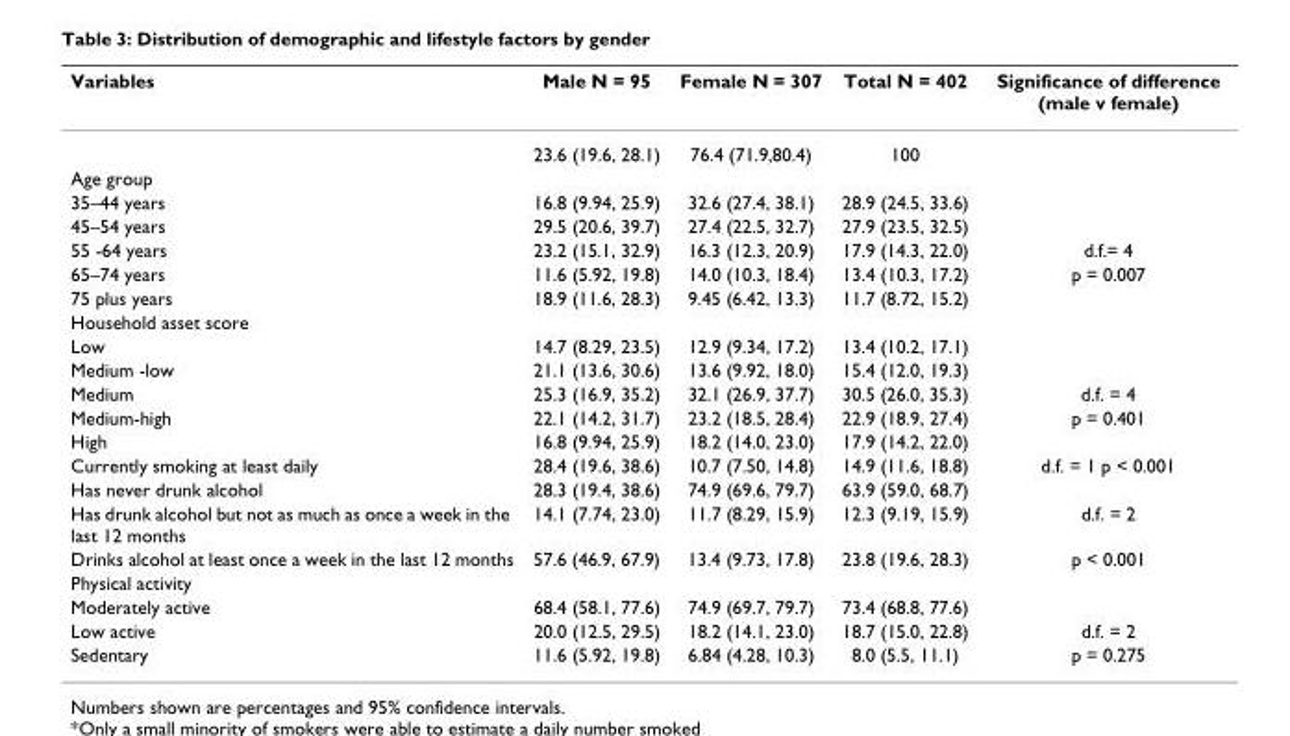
<table><thead><tr><td>Variables</td><td>Male N = 95</td><td>Female N = 307</td><td>Total N = 402</td><td>Significance of difference (male v female)</td></tr></thead><tbody><tr><td></td><td>23.6 (19.6, 28.1)</td><td>76.4 (71.9,80.4)</td><td>100</td><td></td></tr><tr><td colspan="5">Age group</td></tr><tr><td>35–44 years</td><td>16.8 (9.94, 25.9)</td><td>32.6 (27.4, 38.1)</td><td>28.9 (24.5, 33.6)</td><td></td></tr><tr><td>45–54 years</td><td>29.5 (20.6, 39.7)</td><td>27.4 (22.5, 32.7)</td><td>27.9 (23.5, 32.5)</td><td></td></tr><tr><td>55 -64 years</td><td>23.2 (15.1, 32.9)</td><td>16.3 (12.3, 20.9)</td><td>17.9 (14.3, 22.0)</td><td>d.f.= 4</td></tr><tr><td>65–74 years</td><td>11.6 (5.92, 19.8)</td><td>14.0 (10.3, 18.4)</td><td>13.4 (10.3, 17.2)</td><td>p = 0.007</td></tr><tr><td>75 plus years</td><td>18.9 (11.6, 28.3)</td><td>9.45 (6.42, 13.3)</td><td>11.7 (8.72, 15.2)</td><td></td></tr><tr><td colspan="5">Household asset score</td></tr><tr><td>Low</td><td>14.7 (8.29, 23.5)</td><td>12.9 (9.34, 17.2)</td><td>13.4 (10.2, 17.1)</td><td></td></tr><tr><td>Medium -low</td><td>21.1 (13.6, 30.6)</td><td>13.6 (9.92, 18.0)</td><td>15.4 (12.0, 19.3)</td><td></td></tr><tr><td>Medium</td><td>25.3 (16.9, 35.2)</td><td>32.1 (26.9, 37.7)</td><td>30.5 (26.0, 35.3)</td><td>d.f. = 4</td></tr><tr><td>Medium-high</td><td>22.1 (14.2, 31.7)</td><td>23.2 (18.5, 28.4)</td><td>22.9 (18.9, 27.4)</td><td>p = 0.401</td></tr><tr><td>High</td><td>16.8 (9.94, 25.9)</td><td>18.2 (14.0, 23.0)</td><td>17.9 (14.2, 22.0)</td><td></td></tr><tr><td>Currently smoking at least daily</td><td>28.4 (19.6, 38.6)</td><td>10.7 (7.50, 14.8)</td><td>14.9 (11.6, 18.8)</td><td>d.f. = 1 p &lt; 0.001</td></tr><tr><td>Has never drunk alcohol</td><td>28.3 (19.4, 38.6)</td><td>74.9 (69.6, 79.7)</td><td>63.9 (59.0, 68.7)</td><td></td></tr><tr><td>Has drunk alcohol but not as much as once a week in the last 12 months</td><td>14.1 (7.74, 23.0)</td><td>11.7 (8.29, 15.9)</td><td>12.3 (9.19, 15.9)</td><td>d.f. = 2</td></tr><tr><td>Drinks alcohol at least once a week in the last 12 months</td><td>57.6 (46.9, 67.9)</td><td>13.4 (9.73, 17.8)</td><td>23.8 (19.6, 28.3)</td><td>p &lt; 0.001</td></tr><tr><td colspan="5">Physical activity</td></tr><tr><td>Moderately active</td><td>68.4 (58.1, 77.6)</td><td>74.9 (69.7, 79.7)</td><td>73.4 (68.8, 77.6)</td><td></td></tr><tr><td>Low active</td><td>20.0 (12.5, 29.5)</td><td>18.2 (14.1, 23.0)</td><td>18.7 (15.0, 22.8)</td><td>d.f. = 2</td></tr><tr><td>Sedentary</td><td>11.6 (5.92, 19.8)</td><td>6.84 (4.28, 10.3)</td><td>8.0 (5.5, 11.1)</td><td>p = 0.275</td></tr></tbody></table>